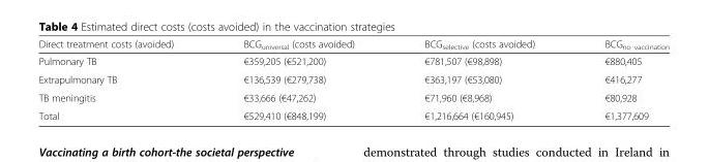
<table><thead><tr><td>Direct treatment costs (avoided)</td><td>BCG<sub>universal</sub> (costs avoided)</td><td>BCG<sub>selective</sub> (costs avoided)</td><td>BCG<sub>no vaccination</sub></td></tr></thead><tbody><tr><td>Pulmonary TB</td><td>€359,205 (€521,200)</td><td>€781,507 (€98,898)</td><td>€880,405</td></tr><tr><td>Extrapulmonary TB</td><td>€136,539 (€279,738)</td><td>€363,197 (€53,080)</td><td>€416,277</td></tr><tr><td>TB meningitis</td><td>€33,666 (€47,262)</td><td>€71,960 (€8,968)</td><td>€80,928</td></tr><tr><td>Total</td><td>€529,410 (€848,199)</td><td>€1,216,664 (€160,945)</td><td>€1,377,609</td></tr></tbody></table>